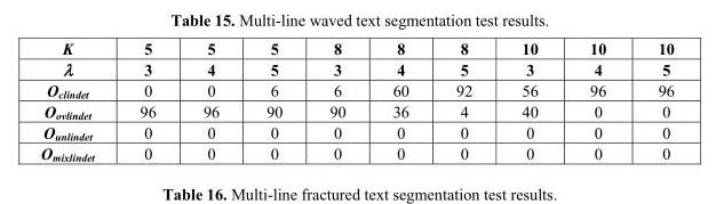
<table><thead><tr><td rowspan="2">K λ</td><td rowspan="2">5 3</td><td rowspan="2">5 4</td><td rowspan="2">5 5</td><td rowspan="2">8 3</td><td rowspan="2">8 4</td><td rowspan="2">8 5</td><td rowspan="2">10 3</td><td rowspan="2">10 4</td><td rowspan="2">10 5</td></tr><tr></tr></thead><tbody><tr><td>O<sub>clindet</sub></td><td>0</td><td>0</td><td>6</td><td>6</td><td>60</td><td>92</td><td>56</td><td>96</td><td>96</td></tr><tr><td>O<sub>ovlindet</sub></td><td>96</td><td>96</td><td>90</td><td>90</td><td>36</td><td>4</td><td>40</td><td>0</td><td>0</td></tr><tr><td>O<sub>unlindet</sub></td><td>0</td><td>0</td><td>0</td><td>0</td><td>0</td><td>0</td><td>0</td><td>0</td><td>0</td></tr><tr><td>O<sub>mixlindet</sub></td><td>0</td><td>0</td><td>0</td><td>0</td><td>0</td><td>0</td><td>0</td><td>0</td><td>0</td></tr></tbody></table>